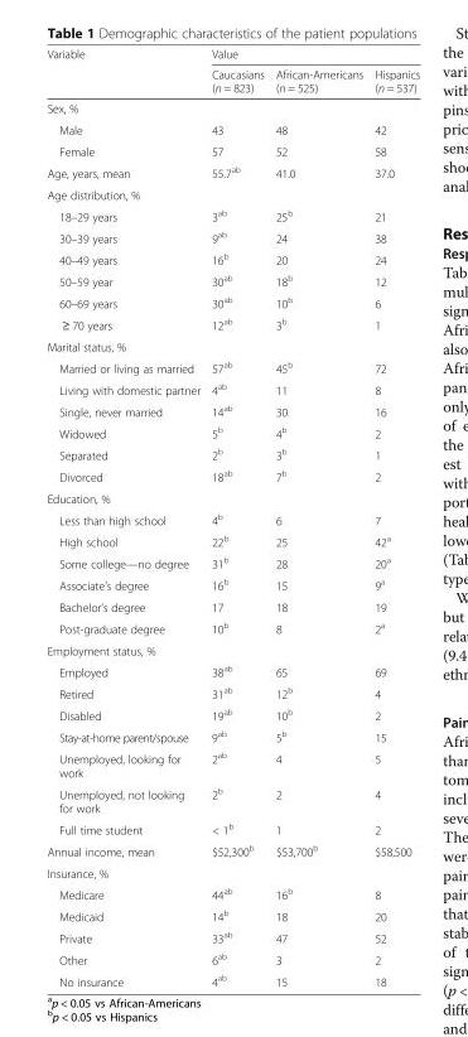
<table><thead><tr><td rowspan="2">Variable</td><td colspan="3">Value</td></tr><tr><td>Caucasians (n = 823)</td><td>African-Americans (n = 525)</td><td>Hispanics (n = 537)</td></tr></thead><tbody><tr><td colspan="4">Sex, %</td></tr><tr><td>Male</td><td>43</td><td>48</td><td>42</td></tr><tr><td>Female</td><td>57</td><td>52</td><td>58</td></tr><tr><td>Age, years, mean</td><td>55.7<sup>ab</sup></td><td>41.0</td><td>37.0</td></tr><tr><td colspan="4">Age distribution, %</td></tr><tr><td>18–29 years</td><td>3<sup>ab</sup></td><td>25<sup>b</sup></td><td>21</td></tr><tr><td>30–39 years</td><td>9<sup>ab</sup></td><td>24</td><td>38</td></tr><tr><td>40–49 years</td><td>16<sup>b</sup></td><td>20</td><td>24</td></tr><tr><td>50–59 year</td><td>30<sup>ab</sup></td><td>18<sup>b</sup></td><td>12</td></tr><tr><td>60–69 years</td><td>30<sup>ab</sup></td><td>10<sup>b</sup></td><td>6</td></tr><tr><td>≥ 70 years</td><td>12<sup>ab</sup></td><td>3<sup>b</sup></td><td>1</td></tr><tr><td colspan="4">Marital status, %</td></tr><tr><td>Married or living as married</td><td>57<sup>ab</sup></td><td>45<sup>b</sup></td><td>72</td></tr><tr><td>Living with domestic partner</td><td>4<sup>ab</sup></td><td>11</td><td>8</td></tr><tr><td>Single, never married</td><td>14<sup>ab</sup></td><td>30</td><td>16</td></tr><tr><td>Widowed</td><td>5<sup>b</sup></td><td>4<sup>b</sup></td><td>2</td></tr><tr><td>Separated</td><td>2<sup>b</sup></td><td>3<sup>b</sup></td><td>1</td></tr><tr><td>Divorced</td><td>18<sup>ab</sup></td><td>7<sup>b</sup></td><td>2</td></tr><tr><td colspan="4">Education, %</td></tr><tr><td>Less than high school</td><td>4<sup>b</sup></td><td>6</td><td>7</td></tr><tr><td>High school</td><td>22<sup>b</sup></td><td>25</td><td>42<sup>a</sup></td></tr><tr><td>Some college—no degree</td><td>31<sup>b</sup></td><td>28</td><td>20<sup>a</sup></td></tr><tr><td>Associate’s degree</td><td>16<sup>b</sup></td><td>15</td><td>9<sup>a</sup></td></tr><tr><td>Bachelor’s degree</td><td>17</td><td>18</td><td>19</td></tr><tr><td>Post-graduate degree</td><td>10<sup>b</sup></td><td>8</td><td>2<sup>a</sup></td></tr><tr><td colspan="4">Employment status, %</td></tr><tr><td>Employed</td><td>38<sup>ab</sup></td><td>65</td><td>69</td></tr><tr><td>Retired</td><td>31<sup>ab</sup></td><td>12<sup>b</sup></td><td>4</td></tr><tr><td>Disabled</td><td>19<sup>ab</sup></td><td>10<sup>b</sup></td><td>2</td></tr><tr><td>Stay-at-home parent/spouse</td><td>9<sup>ab</sup></td><td>5<sup>b</sup></td><td>15</td></tr><tr><td>Unemployed, looking for work</td><td>2<sup>ab</sup></td><td>4</td><td>5</td></tr><tr><td>Unemployed, not looking for work</td><td>2<sup>b</sup></td><td>2</td><td>4</td></tr><tr><td>Full time student</td><td>&lt; 1<sup>b</sup></td><td>1</td><td>2</td></tr><tr><td>Annual income, mean</td><td>$52,300<sup>b</sup></td><td>$53,700<sup>b</sup></td><td>$58,500</td></tr><tr><td colspan="4">Insurance, %</td></tr><tr><td>Medicare</td><td>44<sup>ab</sup></td><td>16<sup>b</sup></td><td>8</td></tr><tr><td>Medicaid</td><td>14<sup>b</sup></td><td>18</td><td>20</td></tr><tr><td>Private</td><td>33<sup>ab</sup></td><td>47</td><td>52</td></tr><tr><td>Other</td><td>6<sup>ab</sup></td><td>3</td><td>2</td></tr><tr><td>No insurance</td><td>4<sup>ab</sup></td><td>15</td><td>18</td></tr></tbody></table>